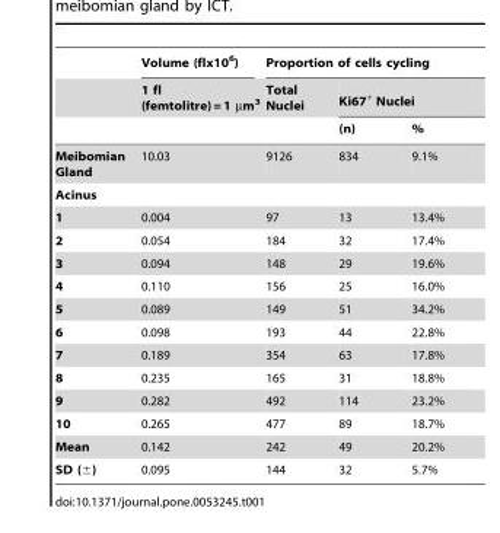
<table><thead><tr><td rowspan="3"></td><td rowspan="3">Volume (flx10<sup>6</sup>) 1 fl (femtolitre) = 1 µm<sup>3</sup></td><td colspan="3">Proportion of cells cycling</td></tr><tr><td rowspan="2">Total Nuclei</td><td colspan="2">Ki67<sup>+</sup> Nuclei</td></tr><tr><td>(n)</td><td>%</td></tr></thead><tbody><tr><td>Meibomian Gland</td><td>10.03</td><td>9126</td><td>834</td><td>9.1%</td></tr><tr><td colspan="5">Acinus</td></tr><tr><td>1</td><td>0.004</td><td>97</td><td>13</td><td>13.4%</td></tr><tr><td>2</td><td>0.054</td><td>184</td><td>32</td><td>17.4%</td></tr><tr><td>3</td><td>0.094</td><td>148</td><td>29</td><td>19.6%</td></tr><tr><td>4</td><td>0.110</td><td>156</td><td>25</td><td>16.0%</td></tr><tr><td>5</td><td>0.089</td><td>149</td><td>51</td><td>34.2%</td></tr><tr><td>6</td><td>0.098</td><td>193</td><td>44</td><td>22.8%</td></tr><tr><td>7</td><td>0.189</td><td>354</td><td>63</td><td>17.8%</td></tr><tr><td>8</td><td>0.235</td><td>165</td><td>31</td><td>18.8%</td></tr><tr><td>9</td><td>0.282</td><td>492</td><td>114</td><td>23.2%</td></tr><tr><td>10</td><td>0.265</td><td>477</td><td>89</td><td>18.7%</td></tr><tr><td>Mean</td><td>0.142</td><td>242</td><td>49</td><td>20.2%</td></tr><tr><td>SD (±)</td><td>0.095</td><td>144</td><td>32</td><td>5.7%</td></tr></tbody></table>